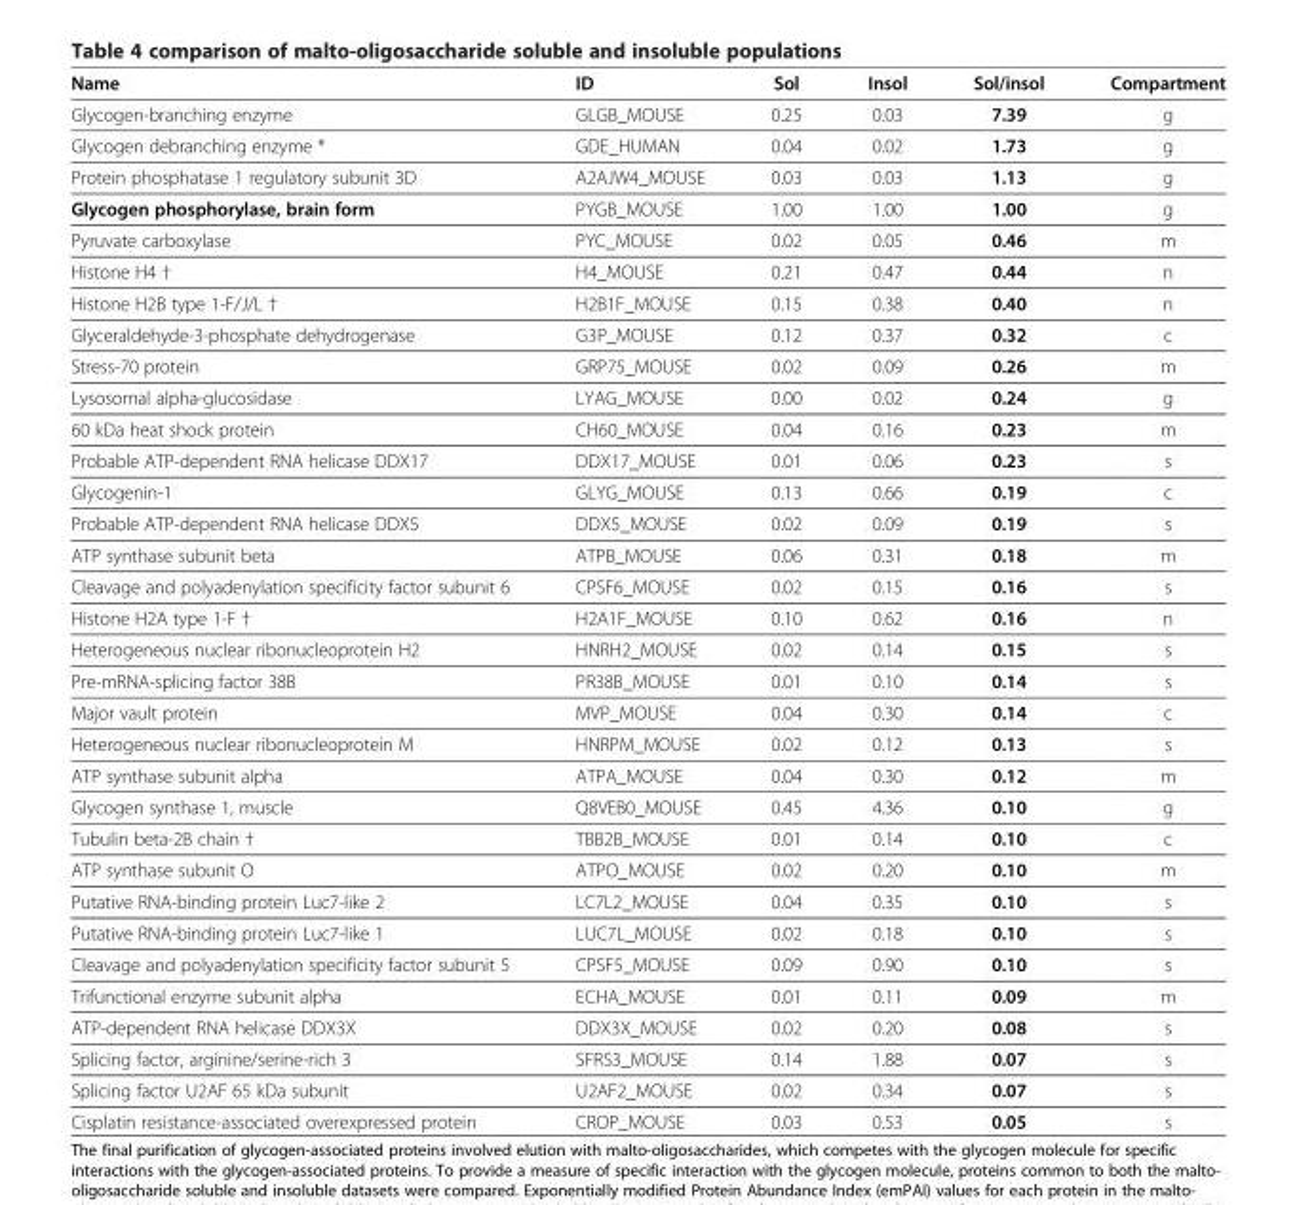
<table><thead><tr><td>Name</td><td>ID</td><td>Sol</td><td>Insol</td><td>Sol/insol</td><td>Compartment</td></tr></thead><tbody><tr><td>Glycogen-branching enzyme</td><td>GLGB_MOUSE</td><td>0.25</td><td>0.03</td><td>7.39</td><td>g</td></tr><tr><td>Glycogen debranching enzyme *</td><td>GDE_HUMAN</td><td>0.04</td><td>0.02</td><td>1.73</td><td>g</td></tr><tr><td>Protein phosphatase 1 regulatory subunit 3D</td><td>A2AJW4_MOUSE</td><td>0.03</td><td>0.03</td><td>1.13</td><td>g</td></tr><tr><td>Glycogen phosphorylase, brain form</td><td>PYGB_MOUSE</td><td>1.00</td><td>1.00</td><td>1.00</td><td>g</td></tr><tr><td>Pyruvate carboxylase</td><td>PYC_MOUSE</td><td>0.02</td><td>0.05</td><td>0.46</td><td>m</td></tr><tr><td>Histone H4 †</td><td>H4_MOUSE</td><td>0.21</td><td>0.47</td><td>0.44</td><td>n</td></tr><tr><td>Histone H2B type 1-F/J/L †</td><td>H2B1F_MOUSE</td><td>0.15</td><td>0.38</td><td>0.40</td><td>n</td></tr><tr><td>Glyceraldehyde-3-phosphate dehydrogenase</td><td>G3P_MOUSE</td><td>0.12</td><td>0.37</td><td>0.32</td><td>c</td></tr><tr><td>Stress-70 protein</td><td>GRP75_MOUSE</td><td>0.02</td><td>0.09</td><td>0.26</td><td>m</td></tr><tr><td>Lysosomal alpha-glucosidase</td><td>LYAG_MOUSE</td><td>0.00</td><td>0.02</td><td>0.24</td><td>g</td></tr><tr><td>60 kDa heat shock protein</td><td>CH60_MOUSE</td><td>0.04</td><td>0.16</td><td>0.23</td><td>m</td></tr><tr><td>Probable ATP-dependent RNA helicase DDX17</td><td>DDX17_MOUSE</td><td>0.01</td><td>0.06</td><td>0.23</td><td>s</td></tr><tr><td>Glycogenin-1</td><td>GLYG_MOUSE</td><td>0.13</td><td>0.66</td><td>0.19</td><td>c</td></tr><tr><td>Probable ATP-dependent RNA helicase DDX5</td><td>DDX5_MOUSE</td><td>0.02</td><td>0.09</td><td>0.19</td><td>s</td></tr><tr><td>ATP synthase subunit beta</td><td>ATPB_MOUSE</td><td>0.06</td><td>0.31</td><td>0.18</td><td>m</td></tr><tr><td>Cleavage and polyadenylation specificity factor subunit 6</td><td>CPSF6_MOUSE</td><td>0.02</td><td>0.15</td><td>0.16</td><td>s</td></tr><tr><td>Histone H2A type 1-F †</td><td>H2A1F_MOUSE</td><td>0.10</td><td>0.62</td><td>0.16</td><td>n</td></tr><tr><td>Heterogeneous nuclear ribonucleoprotein H2</td><td>HNRH2_MOUSE</td><td>0.02</td><td>0.14</td><td>0.15</td><td>s</td></tr><tr><td>Pre-mRNA-splicing factor 38B</td><td>PR38B_MOUSE</td><td>0.01</td><td>0.10</td><td>0.14</td><td>s</td></tr><tr><td>Major vault protein</td><td>MVP_MOUSE</td><td>0.04</td><td>0.30</td><td>0.14</td><td>c</td></tr><tr><td>Heterogeneous nuclear ribonucleoprotein M</td><td>HNRPM_MOUSE</td><td>0.02</td><td>0.12</td><td>0.13</td><td>s</td></tr><tr><td>ATP synthase subunit alpha</td><td>ATPA_MOUSE</td><td>0.04</td><td>0.30</td><td>0.12</td><td>m</td></tr><tr><td>Glycogen synthase 1, muscle</td><td>Q8VEB0_MOUSE</td><td>0.45</td><td>4.36</td><td>0.10</td><td>g</td></tr><tr><td>Tubulin beta-2B chain †</td><td>TBB2B_MOUSE</td><td>0.01</td><td>0.14</td><td>0.10</td><td>c</td></tr><tr><td>ATP synthase subunit O</td><td>ATPO_MOUSE</td><td>0.02</td><td>0.20</td><td>0.10</td><td>m</td></tr><tr><td>Putative RNA-binding protein Luc7-like 2</td><td>LC7L2_MOUSE</td><td>0.04</td><td>0.35</td><td>0.10</td><td>s</td></tr><tr><td>Putative RNA-binding protein Luc7-like 1</td><td>LUC7L_MOUSE</td><td>0.02</td><td>0.18</td><td>0.10</td><td>s</td></tr><tr><td>Cleavage and polyadenylation specificity factor subunit 5</td><td>CPSF5_MOUSE</td><td>0.09</td><td>0.90</td><td>0.10</td><td>s</td></tr><tr><td>Trifunctional enzyme subunit alpha</td><td>ECHA_MOUSE</td><td>0.01</td><td>0.11</td><td>0.09</td><td>m</td></tr><tr><td>ATP-dependent RNA helicase DDX3X</td><td>DDX3X_MOUSE</td><td>0.02</td><td>0.20</td><td>0.08</td><td>s</td></tr><tr><td>Splicing factor, arginine/serine-rich 3</td><td>SFRS3_MOUSE</td><td>0.14</td><td>1.88</td><td>0.07</td><td>s</td></tr><tr><td>Splicing factor U2AF 65 kDa subunit</td><td>U2AF2_MOUSE</td><td>0.02</td><td>0.34</td><td>0.07</td><td>s</td></tr><tr><td>Cisplatin resistance-associated overexpressed protein</td><td>CROP_MOUSE</td><td>0.03</td><td>0.53</td><td>0.05</td><td>s</td></tr></tbody></table>